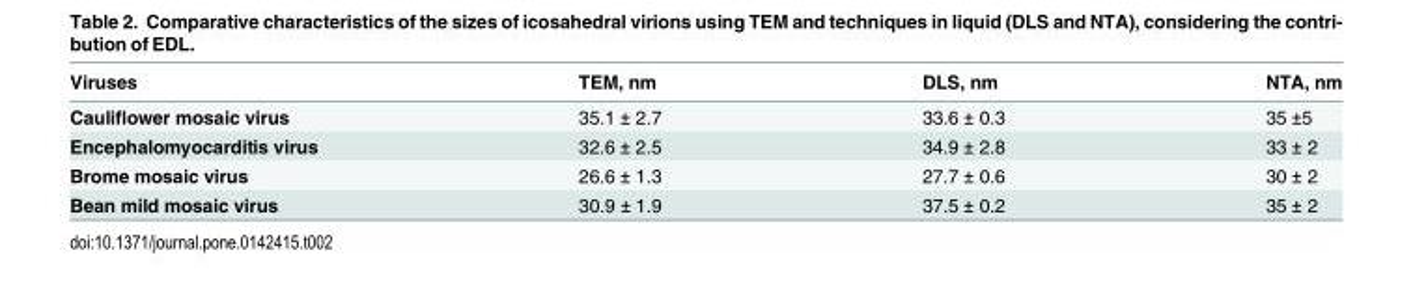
<table><thead><tr><td>Viruses</td><td>TEM, nm</td><td>DLS, nm</td><td>NTA, nm</td></tr></thead><tbody><tr><td>Cauliflower mosaic virus</td><td>35.1 ± 2.7</td><td>33.6 ± 0.3</td><td>35 ±5</td></tr><tr><td>Encephalomyocarditis virus</td><td>32.6 ± 2.5</td><td>34.9 ± 2.8</td><td>33 ± 2</td></tr><tr><td>Brome mosaic virus</td><td>26.6 ± 1.3</td><td>27.7 ± 0.6</td><td>30 ± 2</td></tr><tr><td>Bean mild mosaic virus</td><td>30.9 ± 1.9</td><td>37.5 ± 0.2</td><td>35 ± 2</td></tr></tbody></table>